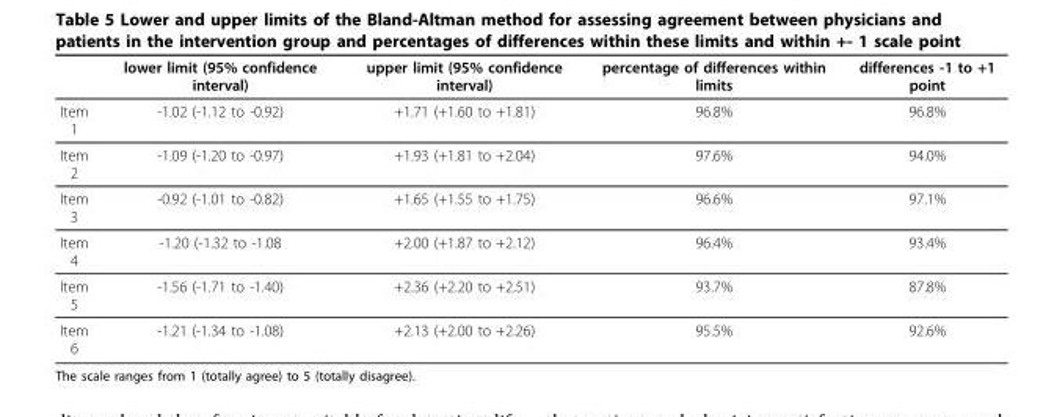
<table><thead><tr><td></td><td>lower limit (95% confidence interval)</td><td>upper limit (95% confidence interval)</td><td>percentage of differences within limits</td><td>differences -1 to +1 point</td></tr></thead><tbody><tr><td>Item 1</td><td>-1.02 (-1.12 to -0.92)</td><td>+1.71 (+1.60 to +1.81)</td><td>96.8%</td><td>96.8%</td></tr><tr><td>Item 2</td><td>-1.09 (-1.20 to -0.97)</td><td>+1.93 (+1.81 to +2.04)</td><td>97.6%</td><td>94.0%</td></tr><tr><td>Item 3</td><td>-0.92 (-1.01 to -0.82)</td><td>+1.65 (+1.55 to +1.75)</td><td>96.6%</td><td>97.1%</td></tr><tr><td>Item 4</td><td>-1.20 (-1.32 to -1.08</td><td>+2.00 (+1.87 to +2.12)</td><td>96.4%</td><td>93.4%</td></tr><tr><td>Item 5</td><td>-1.56 (-1.71 to -1.40)</td><td>+2.36 (+2.20 to +2.51)</td><td>93.7%</td><td>87.8%</td></tr><tr><td>Item 6</td><td>-1.21 (-1.34 to -1.08)</td><td>+2.13 (+2.00 to +2.26)</td><td>95.5%</td><td>92.6%</td></tr></tbody></table>